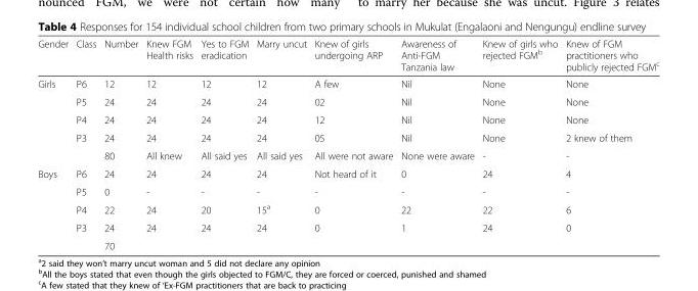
<table><thead><tr><td>Gender</td><td>Class</td><td>Number</td><td>Knew FGM Health risks</td><td>Yes to FGM eradication</td><td>Marry uncut</td><td>Knew of girls undergoing ARP</td><td>Awareness of Anti-FGM Tanzania law</td><td>Knew of girls who rejected FGM<sup>b</sup></td><td>Knew of FGM practitioners who publicly rejected FGM<sup>c</sup></td></tr></thead><tbody><tr><td rowspan="5">Girls</td><td>P6</td><td>12</td><td>12</td><td>12</td><td>12</td><td>A few</td><td>Nil</td><td>None</td><td>None</td></tr><tr><td>P5</td><td>24</td><td>24</td><td>24</td><td>24</td><td>02</td><td>Nil</td><td>None</td><td>None</td></tr><tr><td>P4</td><td>24</td><td>24</td><td>24</td><td>24</td><td>12</td><td>Nil</td><td>None</td><td>None</td></tr><tr><td>P3</td><td>24</td><td>24</td><td>24</td><td>24</td><td>05</td><td>Nil</td><td>None</td><td>2 knew of them</td></tr><tr><td></td><td>80</td><td>All knew</td><td>All said yes</td><td>All said yes</td><td>All were not aware</td><td>None were aware</td><td>-</td><td>-</td></tr><tr><td rowspan="5">Boys</td><td>P6</td><td>24</td><td>24</td><td>24</td><td>24</td><td>Not heard of it</td><td>0</td><td>24</td><td>4</td></tr><tr><td>P5</td><td>0</td><td>-</td><td>-</td><td>-</td><td>-</td><td>-</td><td>-</td><td>-</td></tr><tr><td>P4</td><td>22</td><td>24</td><td>20</td><td>15<sup>a</sup></td><td>0</td><td>22</td><td>22</td><td>6</td></tr><tr><td>P3</td><td>24</td><td>24</td><td>24</td><td>24</td><td>0</td><td>1</td><td>24</td><td>0</td></tr><tr><td></td><td>70</td><td></td><td></td><td></td><td></td><td></td><td></td><td></td></tr></tbody></table>